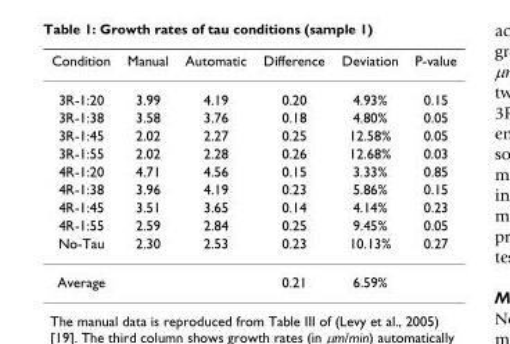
<table><thead><tr><td>Condition</td><td>Manual</td><td>Automatic</td><td>Difference</td><td>Deviation</td><td>P-value</td></tr></thead><tbody><tr><td>3R-1:20</td><td>3.99</td><td>4.19</td><td>0.20</td><td>4.93%</td><td>0.15</td></tr><tr><td>3R-1:38</td><td>3.58</td><td>3.76</td><td>0.18</td><td>4.80%</td><td>0.05</td></tr><tr><td>3R-1:45</td><td>2.02</td><td>2.27</td><td>0.25</td><td>12.58%</td><td>0.05</td></tr><tr><td>3R-1:55</td><td>2.02</td><td>2.28</td><td>0.26</td><td>12.68%</td><td>0.03</td></tr><tr><td>4R-1:20</td><td>4.71</td><td>4.56</td><td>0.15</td><td>3.33%</td><td>0.85</td></tr><tr><td>4R-1:38</td><td>3.96</td><td>4.19</td><td>0.23</td><td>5.86%</td><td>0.15</td></tr><tr><td>4R-1:45</td><td>3.51</td><td>3.65</td><td>0.14</td><td>4.14%</td><td>0.23</td></tr><tr><td>4R-1:55</td><td>2.59</td><td>2.84</td><td>0.25</td><td>9.45%</td><td>0.05</td></tr><tr><td>No-Tau</td><td>2.30</td><td>2.53</td><td>0.23</td><td>10.13%</td><td>0.27</td></tr><tr><td>Average</td><td></td><td></td><td>0.21</td><td>6.59%</td><td></td></tr></tbody></table>